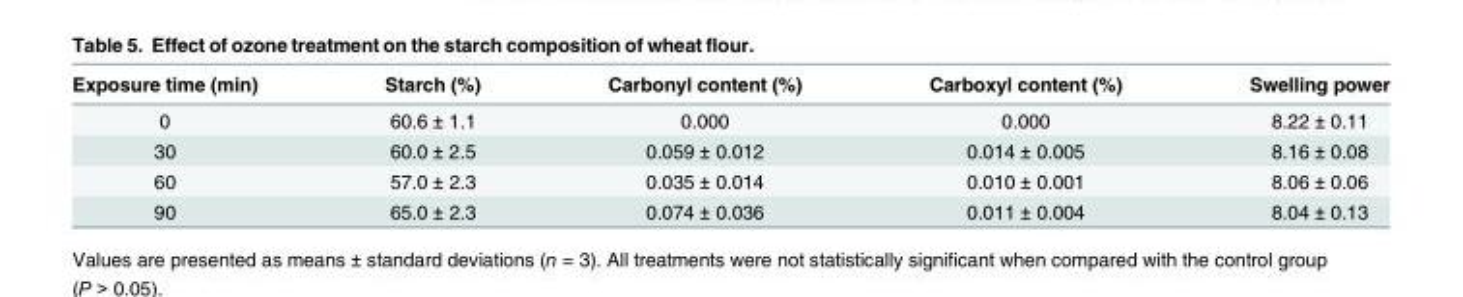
<table><thead><tr><td>Exposure time (min)</td><td>Starch (%)</td><td>Carbonyl content (%)</td><td>Carboxyl content (%)</td><td>Swelling power</td></tr></thead><tbody><tr><td>0</td><td>60.6 ± 1.1</td><td>0.000</td><td>0.000</td><td>8.22 ± 0.11</td></tr><tr><td>30</td><td>60.0 ± 2.5</td><td>0.059 ± 0.012</td><td>0.014 ± 0.005</td><td>8.16 ± 0.08</td></tr><tr><td>60</td><td>57.0 ± 2.3</td><td>0.035 ± 0.014</td><td>0.010 ± 0.001</td><td>8.06 ± 0.06</td></tr><tr><td>90</td><td>65.0 ± 2.3</td><td>0.074 ± 0.036</td><td>0.011 ± 0.004</td><td>8.04 ± 0.13</td></tr></tbody></table>